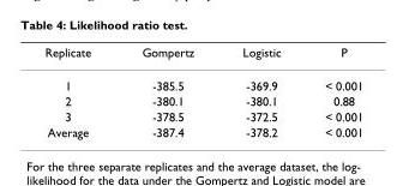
<table><thead><tr><td>Replicate</td><td>Gompertz</td><td>Logistic</td><td>P</td></tr></thead><tbody><tr><td>1</td><td>-385.5</td><td>-369.9</td><td>&lt; 0.001</td></tr><tr><td>2</td><td>-380.1</td><td>-380.1</td><td>0.88</td></tr><tr><td>3</td><td>-378.5</td><td>-372.5</td><td>&lt; 0.001</td></tr><tr><td>Average</td><td>-387.4</td><td>-378.2</td><td>&lt; 0.001</td></tr></tbody></table>